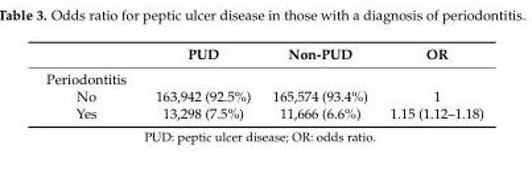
<table><thead><tr><td></td><td>PUD</td><td>Non-PUD</td><td>OR</td></tr></thead><tbody><tr><td colspan="4">Periodontitis</td></tr><tr><td>No</td><td>163,942 (92.5%)</td><td>165,574 (93.4%)</td><td>1</td></tr><tr><td>Yes</td><td>13,298 (7.5%)</td><td>11,666 (6.6%)</td><td>1.15 (1.12–1.18)</td></tr></tbody></table>